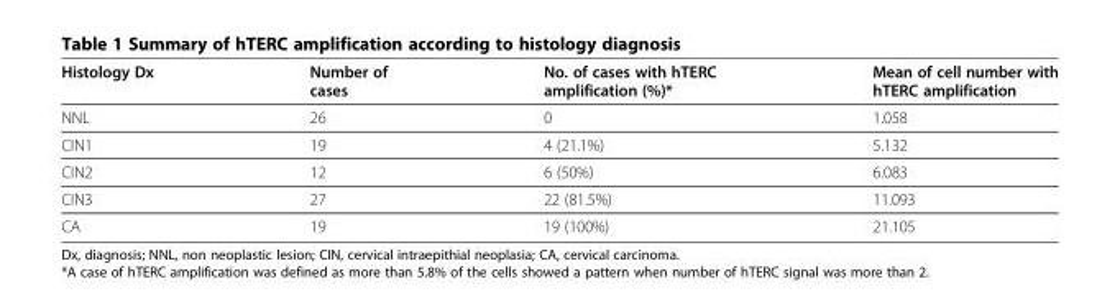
<table><thead><tr><td>Histology Dx</td><td>Number of cases</td><td>No. of cases with hTERC amplification (%)*</td><td>Mean of cell number with hTERC amplification</td></tr></thead><tbody><tr><td>NNL</td><td>26</td><td>0</td><td>1.058</td></tr><tr><td>CIN1</td><td>19</td><td>4 (21.1%)</td><td>5.132</td></tr><tr><td>CIN2</td><td>12</td><td>6 (50%)</td><td>6.083</td></tr><tr><td>CIN3</td><td>27</td><td>22 (81.5%)</td><td>11.093</td></tr><tr><td>CA</td><td>19</td><td>19 (100%)</td><td>21.105</td></tr></tbody></table>